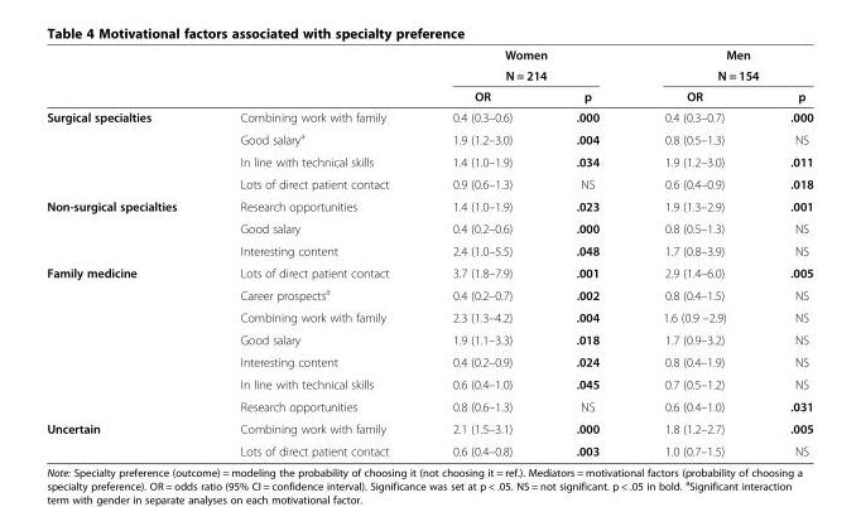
<table><thead><tr><td rowspan="3"></td><td rowspan="3"></td><td rowspan="2" colspan="2">Women N = 214</td><td rowspan="2" colspan="2">Men N = 154</td></tr><tr></tr><tr><td>OR</td><td>p</td><td>OR</td><td>p</td></tr></thead><tbody><tr><td rowspan="4">Surgical specialties</td><td>Combining work with family</td><td>0.4 (0.3–0.6)</td><td>.000</td><td>0.4 (0.3–0.7)</td><td>.000</td></tr><tr><td>Good salary<sup>a</sup></td><td>1.9 (1.2–3.0)</td><td>.004</td><td>0.8 (0.5–1.3)</td><td>NS</td></tr><tr><td>In line with technical skills</td><td>1.4 (1.0–1.9)</td><td>.034</td><td>1.9 (1.2–3.0)</td><td>.011</td></tr><tr><td>Lots of direct patient contact</td><td>0.9 (0.6–1.3)</td><td>NS</td><td>0.6 (0.4–0.9)</td><td>.018</td></tr><tr><td rowspan="3">Non-surgical specialties</td><td>Research opportunities</td><td>1.4 (1.0–1.9)</td><td>.023</td><td>1.9 (1.3–2.9)</td><td>.001</td></tr><tr><td>Good salary</td><td>0.4 (0.2–0.6)</td><td>.000</td><td>0.8 (0.5–1.3)</td><td>NS</td></tr><tr><td>Interesting content</td><td>2.4 (1.0–5.5)</td><td>.048</td><td>1.7 (0.8–3.9)</td><td>NS</td></tr><tr><td rowspan="7">Family medicine</td><td>Lots of direct patient contact</td><td>3.7 (1.8–7.9)</td><td>.001</td><td>2.9 (1.4–6.0)</td><td>.005</td></tr><tr><td>Career prospects<sup>a</sup></td><td>0.4 (0.2–0.7)</td><td>.002</td><td>0.8 (0.4–1.5)</td><td>NS</td></tr><tr><td>Combining work with family</td><td>2.3 (1.3–4.2)</td><td>.004</td><td>1.6 (0.9 –2.9)</td><td>NS</td></tr><tr><td>Good salary</td><td>1.9 (1.1–3.3)</td><td>.018</td><td>1.7 (0.9–3.2)</td><td>NS</td></tr><tr><td>Interesting content</td><td>0.4 (0.2–0.9)</td><td>.024</td><td>0.8 (0.4–1.9)</td><td>NS</td></tr><tr><td>In line with technical skills</td><td>0.6 (0.4–1.0)</td><td>.045</td><td>0.7 (0.5–1.2)</td><td>NS</td></tr><tr><td>Research opportunities</td><td>0.8 (0.6–1.3)</td><td>NS</td><td>0.6 (0.4–1.0)</td><td>.031</td></tr><tr><td rowspan="2">Uncertain</td><td>Combining work with family</td><td>2.1 (1.5–3.1)</td><td>.000</td><td>1.8 (1.2–2.7)</td><td>.005</td></tr><tr><td>Lots of direct patient contact</td><td>0.6 (0.4–0.8)</td><td>.003</td><td>1.0 (0.7–1.5)</td><td>NS</td></tr></tbody></table>